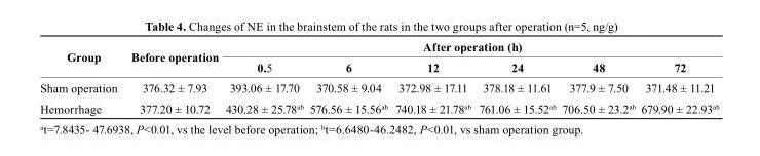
<table><thead><tr><td rowspan="2">Group</td><td rowspan="2">before operation</td><td colspan="6">After operation (h)</td></tr><tr><td>0.5</td><td>6</td><td>12</td><td>24</td><td>48</td><td>72</td></tr></thead><tbody><tr><td>Sham operation</td><td>376.32 ± 7.93</td><td>393.06 ± 17.70</td><td>370.58 ± 9.04</td><td>372.98 ± 17.11</td><td>378.18 ± 11.61</td><td>377.9 ± 7.50</td><td>371.48 ± 11.21</td></tr><tr><td>Hemorrhage</td><td>377.20 ± 10.72</td><td>430.28 ± 25.78<sup>ab</sup></td><td>576.56 ± 15.56<sup>ab</sup></td><td>740.18 ± 21.78<sup>ab</sup></td><td>761.06 ± 15.52<sup>ab</sup></td><td>706.50 ± 23.2<sup>ab</sup></td><td>679.90 ± 22.93<sup>ab</sup></td></tr></tbody></table>